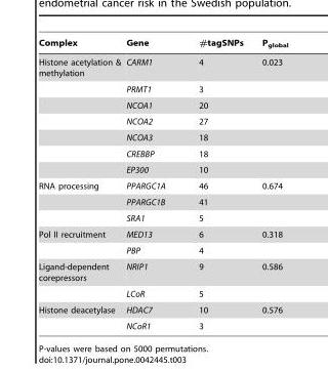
<table><thead><tr><td>Complex</td><td>Gene</td><td>#tagSNPs</td><td>P<sub>global</sub></td></tr></thead><tbody><tr><td rowspan="7">Histone acetylation &amp; methylation</td><td>CARM1</td><td>4</td><td>0.023</td></tr><tr><td>PRMT1</td><td>3</td><td></td></tr><tr><td>NCOA1</td><td>20</td><td></td></tr><tr><td>NCOA2</td><td>27</td><td></td></tr><tr><td>NCOA3</td><td>18</td><td></td></tr><tr><td>CREBBP</td><td>18</td><td></td></tr><tr><td>EP300</td><td>10</td><td></td></tr><tr><td rowspan="3">RNA processing</td><td>PPARGC1A</td><td>46</td><td>0.674</td></tr><tr><td>PPARGC1B</td><td>41</td><td></td></tr><tr><td>SRA1</td><td>5</td><td></td></tr><tr><td rowspan="2">Pol II recruitment</td><td>MED13</td><td>6</td><td>0.318</td></tr><tr><td>PBP</td><td>4</td><td></td></tr><tr><td rowspan="2">Ligand-dependent corepressors</td><td>NRIP1</td><td>9</td><td>0.586</td></tr><tr><td>LCoR</td><td>5</td><td></td></tr><tr><td rowspan="2">Histone deacetylase</td><td>HDAC7</td><td>10</td><td>0.576</td></tr><tr><td>NCoR1</td><td>3</td><td></td></tr></tbody></table>